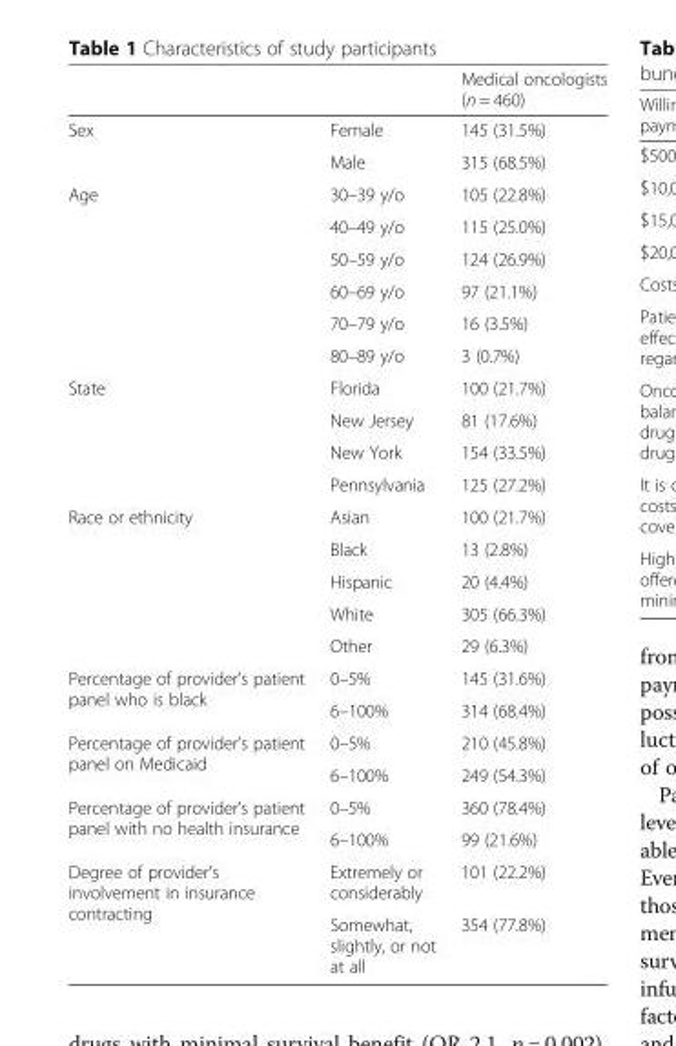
<table><thead><tr><td></td><td></td><td>Medical oncologists (n = 460)</td></tr></thead><tbody><tr><td rowspan="2">Sex</td><td>Female</td><td>145 (31.5%)</td></tr><tr><td>Male</td><td>315 (68.5%)</td></tr><tr><td rowspan="6">Age</td><td>30–39 y/o</td><td>105 (22.8%)</td></tr><tr><td>40–49 y/o</td><td>115 (25.0%)</td></tr><tr><td>50–59 y/o</td><td>124 (26.9%)</td></tr><tr><td>60–69 y/o</td><td>97 (21.1%)</td></tr><tr><td>70–79 y/o</td><td>16 (3.5%)</td></tr><tr><td>80–89 y/o</td><td>3 (0.7%)</td></tr><tr><td rowspan="4">State</td><td>Florida</td><td>100 (21.7%)</td></tr><tr><td>New Jersey</td><td>81 (17.6%)</td></tr><tr><td>New York</td><td>154 (33.5%)</td></tr><tr><td>Pennsylvania</td><td>125 (27.2%)</td></tr><tr><td rowspan="5">Race or ethnicity</td><td>Asian</td><td>100 (21.7%)</td></tr><tr><td>Black</td><td>13 (2.8%)</td></tr><tr><td>Hispanic</td><td>20 (4.4%)</td></tr><tr><td>White</td><td>305 (66.3%)</td></tr><tr><td>Other</td><td>29 (6.3%)</td></tr><tr><td rowspan="2">Percentage of provider’s patient panel who is black</td><td>0–5%</td><td>145 (31.6%)</td></tr><tr><td>6–100%</td><td>314 (68.4%)</td></tr><tr><td rowspan="2">Percentage of provider’s patient panel on Medicaid</td><td>0–5%</td><td>210 (45.8%)</td></tr><tr><td>6–100%</td><td>249 (54.3%)</td></tr><tr><td rowspan="2">Percentage of provider’s patient panel with no health insurance</td><td>0–5%</td><td>360 (78.4%)</td></tr><tr><td>6–100%</td><td>99 (21.6%)</td></tr><tr><td rowspan="2">Degree of provider’s involvement in insurance contracting</td><td>Extremely or considerably</td><td>101 (22.2%)</td></tr><tr><td>Somewhat, slightly, or not at all</td><td>354 (77.8%)</td></tr></tbody></table>